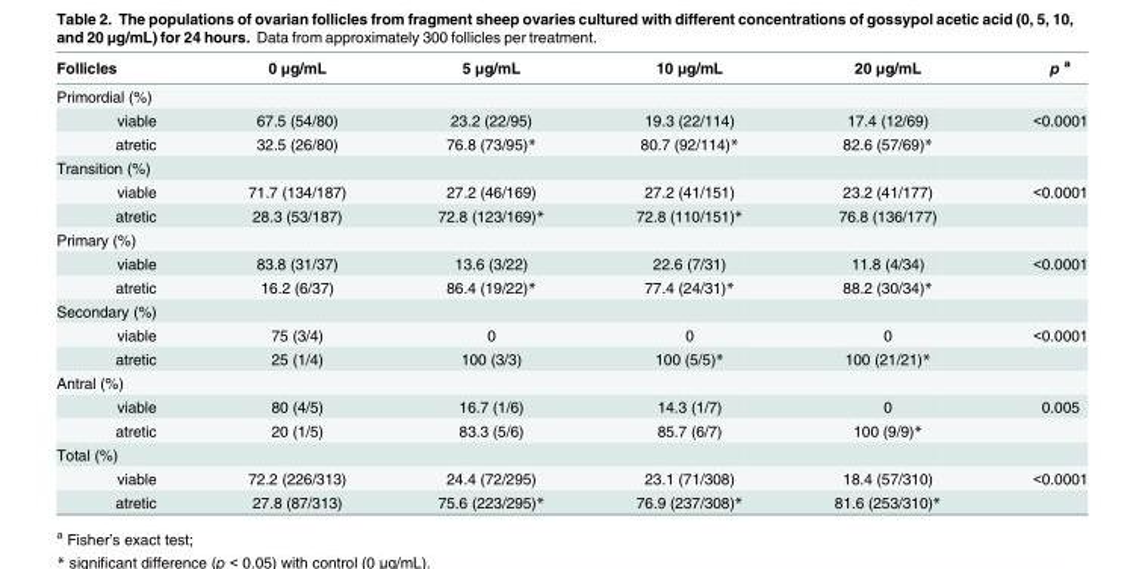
<table><thead><tr><td>Follicles</td><td>0 μg/mL</td><td>5 μg/mL</td><td>10 μg/mL</td><td>20 μg/mL</td><td>p <sup>a</sup></td></tr></thead><tbody><tr><td colspan="6">Primordial (%)</td></tr><tr><td>viable</td><td>67.5 (54/80)</td><td>23.2 (22/95)</td><td>19.3 (22/114)</td><td>17.4 (12/69)</td><td>&lt;0.0001</td></tr><tr><td>atretic</td><td>32.5 (26/80)</td><td>76.8 (73/95)*</td><td>80.7 (92/114)*</td><td>82.6 (57/69)*</td><td></td></tr><tr><td colspan="6">Transition (%)</td></tr><tr><td>viable</td><td>71.7 (134/187)</td><td>27.2 (46/169)</td><td>27.2 (41/151)</td><td>23.2 (41/177)</td><td>&lt;0.0001</td></tr><tr><td>atretic</td><td>28.3 (53/187)</td><td>72.8 (123/169)*</td><td>72.8 (110/151)*</td><td>76.8 (136/177)</td><td></td></tr><tr><td colspan="6">Primary (%)</td></tr><tr><td>viable</td><td>83.8 (31/37)</td><td>13.6 (3/22)</td><td>22.6 (7/31)</td><td>11.8 (4/34)</td><td>&lt;0.0001</td></tr><tr><td>atretic</td><td>16.2 (6/37)</td><td>86.4 (19/22)*</td><td>77.4 (24/31)*</td><td>88.2 (30/34)*</td><td></td></tr><tr><td colspan="6">Secondary (%)</td></tr><tr><td>viable</td><td>75 (3/4)</td><td>0</td><td>0</td><td>0</td><td>&lt;0.0001</td></tr><tr><td>atretic</td><td>25 (1/4)</td><td>100 (3/3)</td><td>100 (5/5)*</td><td>100 (21/21)*</td><td></td></tr><tr><td colspan="6">Antral (%)</td></tr><tr><td>viable</td><td>80 (4/5)</td><td>16.7 (1/6)</td><td>14.3 (1/7)</td><td>0</td><td>0.005</td></tr><tr><td>atretic</td><td>20 (1/5)</td><td>83.3 (5/6)</td><td>85.7 (6/7)</td><td>100 (9/9)*</td><td></td></tr><tr><td colspan="6">Total (%)</td></tr><tr><td>viable</td><td>72.2 (226/313)</td><td>24.4 (72/295)</td><td>23.1 (71/308)</td><td>18.4 (57/310)</td><td>&lt;0.0001</td></tr><tr><td>atretic</td><td>27.8 (87/313)</td><td>75.6 (223/295)*</td><td>76.9 (237/308)*</td><td>81.6 (253/310)*</td><td></td></tr></tbody></table>